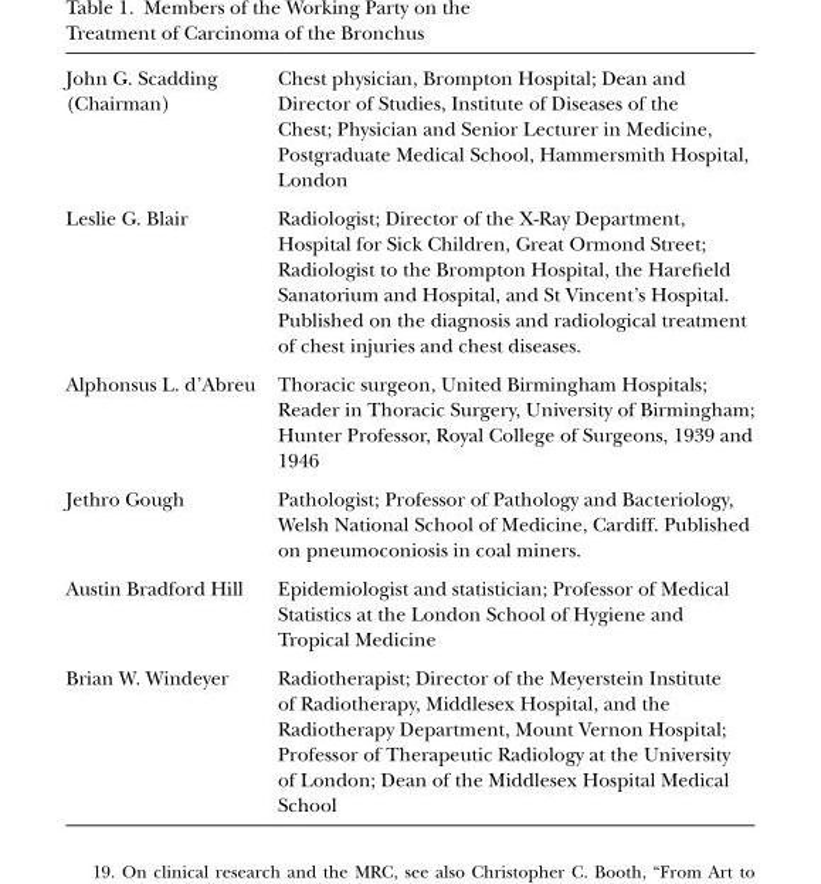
<table><tbody><tr><td>John G. Scadding (Chairman)</td><td>Chest physician, Brompton Hospital; Dean and Director of Studies, Institute of Diseases of the Chest; Physician and Senior Lecturer in Medicine, Postgraduate Medical School, Hammersmith Hospital, London</td></tr><tr><td>Leslie G. Blair</td><td>Radiologist; Director of the X-Ray Department, Hospital for Sick Children, Great Ormond Street; Radiologist to the Brompton Hospital, the Harefield Sanatorium and Hospital, and St Vincent’s Hospital. Published on the diagnosis and radiological treatment of chest injuries and chest diseases.</td></tr><tr><td>Alphonsus L. d’Abreu</td><td>Thoracic surgeon, United Birmingham Hospitals; Reader in Thoracic Surgery, University of Birmingham; Hunter Professor, Royal College of Surgeons, 1939 and 1946</td></tr><tr><td>Jethro Gough</td><td>Pathologist; Professor of Pathology and Bacteriology, Welsh National School of Medicine, Cardiff. Published on pneumoconiosis in coal miners.</td></tr><tr><td>Austin Bradford Hill</td><td>Epidemiologist and statistician; Professor of Medical Statistics at the London School of Hygiene and Tropical Medicine</td></tr><tr><td>Brian W. Windeyer</td><td>Radiotherapist; Director of the Meyerstein Institute of Radiotherapy, Middlesex Hospital, and the Radiotherapy Department, Mount Vernon Hospital; Professor of Therapeutic Radiology at the University of London; Dean of the Middlesex Hospital Medical School</td></tr></tbody></table>